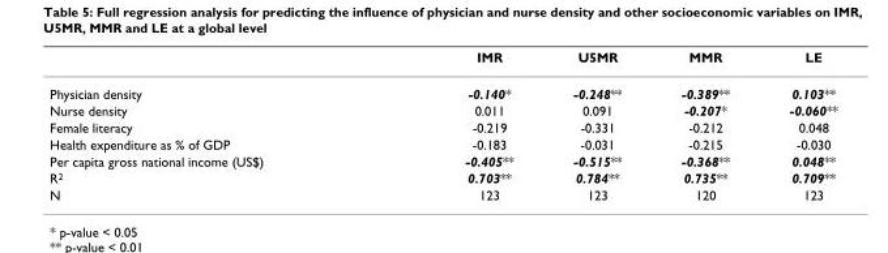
<table><thead><tr><td></td><td>IMR</td><td>U5MR</td><td>MMR</td><td>LE</td></tr></thead><tbody><tr><td>Physician density</td><td>-0.140*</td><td>-0.248**</td><td>-0.389**</td><td>0.103**</td></tr><tr><td>Nurse density</td><td>0.011</td><td>0.091</td><td>-0.207*</td><td>-0.060**</td></tr><tr><td>Female literacy</td><td>-0.219</td><td>-0.331</td><td>-0.212</td><td>0.048</td></tr><tr><td>Health expenditure as % of GDP</td><td>-0.183</td><td>-0.031</td><td>-0.215</td><td>-0.030</td></tr><tr><td>Per capita gross national income (US$)</td><td>-0.405**</td><td>-0.515**</td><td>-0.368**</td><td>0.048**</td></tr><tr><td>R<sup>2</sup></td><td>0.703**</td><td>0.784**</td><td>0.735**</td><td>0.709**</td></tr><tr><td>N</td><td>123</td><td>123</td><td>120</td><td>123</td></tr></tbody></table>